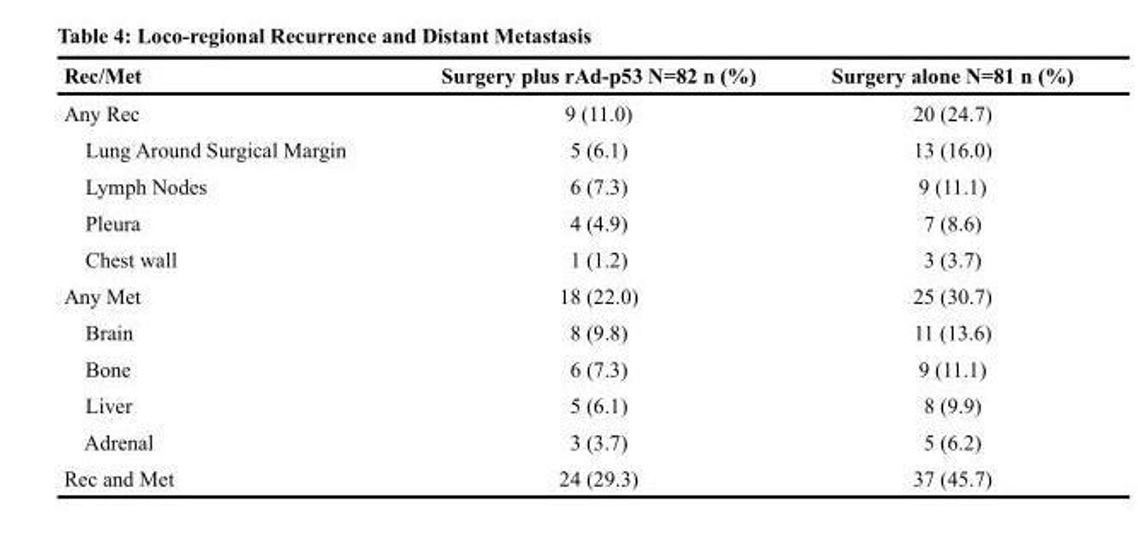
<table><thead><tr><td>Rec/Met</td><td>Surgery plus rAd-p53 N=82 n (%)</td><td>Surgery alone N=81 n (%)</td></tr></thead><tbody><tr><td>Any Rec</td><td>9 (11.0)</td><td>20 (24.7)</td></tr><tr><td>Lung Around Surgical Margin</td><td>5 (6.1)</td><td>13 (16.0)</td></tr><tr><td>Lymph Nodes</td><td>6 (7.3)</td><td>9 (11.1)</td></tr><tr><td>Pleura</td><td>4 (4.9)</td><td>7 (8.6)</td></tr><tr><td>Chest wall</td><td>1 (1.2)</td><td>3 (3.7)</td></tr><tr><td>Any Met</td><td>18 (22.0)</td><td>25 (30.7)</td></tr><tr><td>Brain</td><td>8 (9.8)</td><td>11 (13.6)</td></tr><tr><td>Bone</td><td>6 (7.3)</td><td>9 (11.1)</td></tr><tr><td>Liver</td><td>5 (6.1)</td><td>8 (9.9)</td></tr><tr><td>Adrenal</td><td>3 (3.7)</td><td>5 (6.2)</td></tr><tr><td>Rec and Met</td><td>24 (29.3)</td><td>37 (45.7)</td></tr></tbody></table>